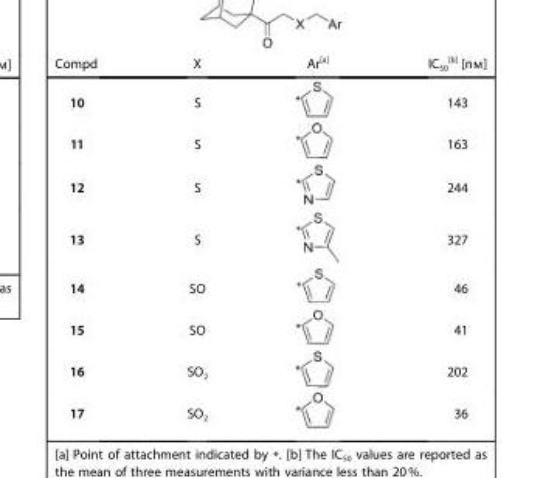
<table><thead><tr><td>Compd</td><td>X</td><td>Ar[a]</td><td>IC<sub>50</sub> [b] [nm]</td></tr></thead><tbody><tr><td>10</td><td>S</td><td></td><td>143</td></tr><tr><td>11</td><td>S</td><td></td><td>163</td></tr><tr><td>12</td><td>S</td><td></td><td>244</td></tr><tr><td>13</td><td>S</td><td></td><td>327</td></tr><tr><td>14</td><td>SO</td><td></td><td>46</td></tr><tr><td>15</td><td>SO</td><td></td><td>41</td></tr><tr><td>16</td><td>SO<sub>2</sub></td><td></td><td>202</td></tr><tr><td>17</td><td>SO<sub>2</sub></td><td></td><td>36</td></tr></tbody></table>